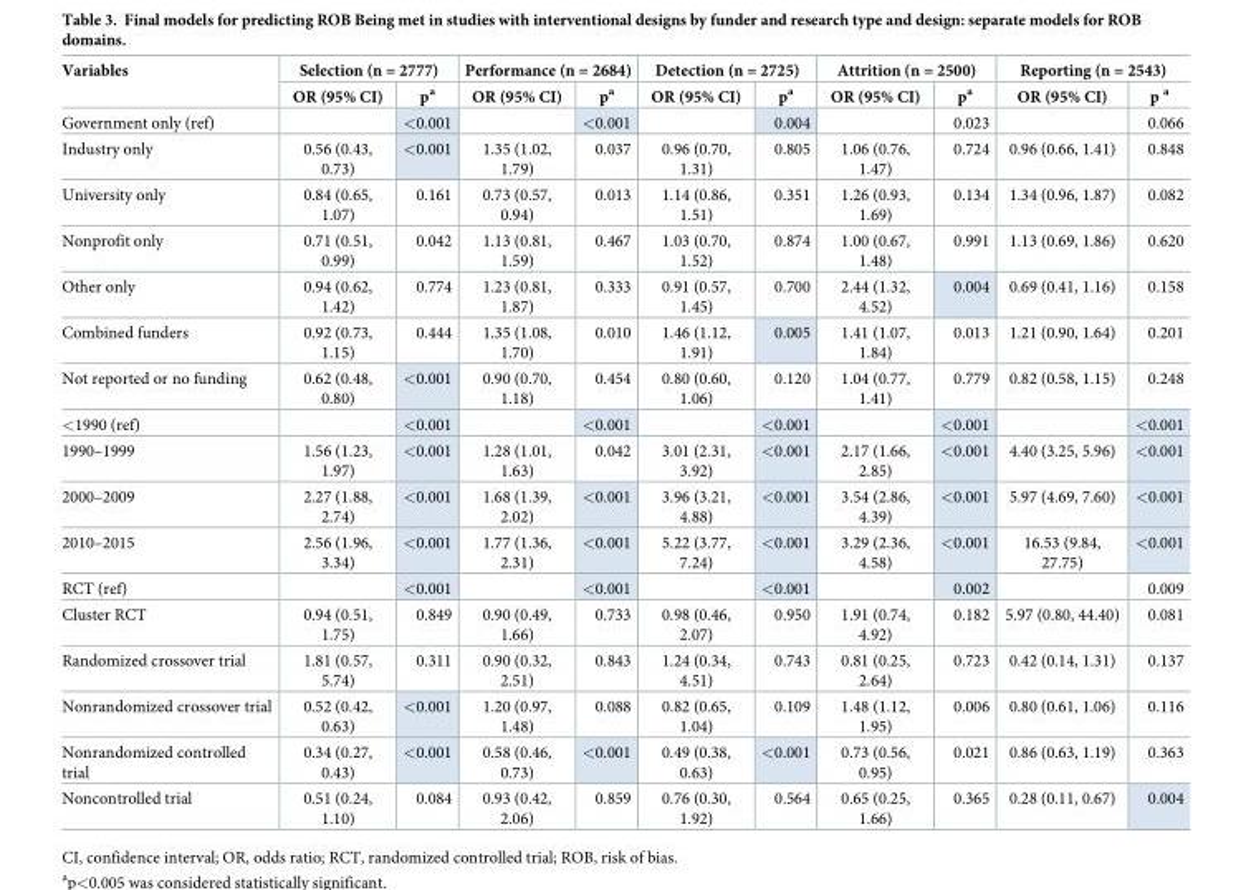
<table><thead><tr><td rowspan="2">Variables</td><td colspan="2">Selection (n = 2777)</td><td colspan="2">Performance (n = 2684)</td><td colspan="2">Detection (n = 2725)</td><td colspan="2">Attrition (n = 2500)</td><td colspan="2">Reporting (n = 2543)</td></tr><tr><td>OR (95% CI)</td><td>p<sup>a</sup></td><td>OR (95% CI)</td><td>p<sup>a</sup></td><td>OR (95% CI)</td><td>p<sup>a</sup></td><td>OR (95% CI)</td><td>p<sup>a</sup></td><td>OR (95% CI)</td><td>p <sup>a</sup></td></tr></thead><tbody><tr><td>Government only (ref)</td><td></td><td>&lt;0.001</td><td></td><td>&lt;0.001</td><td></td><td>0.004</td><td></td><td>0.023</td><td></td><td>0.066</td></tr><tr><td>Industry only</td><td>0.56 (0.43, 0.73)</td><td>&lt;0.001</td><td>1.35 (1.02, 1.79)</td><td>0.037</td><td>0.96 (0.70, 1.31)</td><td>0.805</td><td>1.06 (0.76, 1.47)</td><td>0.724</td><td>0.96 (0.66, 1.41)</td><td>0.848</td></tr><tr><td>University only</td><td>0.84 (0.65, 1.07)</td><td>0.161</td><td>0.73 (0.57, 0.94)</td><td>0.013</td><td>1.14 (0.86, 1.51)</td><td>0.351</td><td>1.26 (0.93, 1.69)</td><td>0.134</td><td>1.34 (0.96, 1.87)</td><td>0.082</td></tr><tr><td>Nonprofit only</td><td>0.71 (0.51, 0.99)</td><td>0.042</td><td>1.13 (0.81, 1.59)</td><td>0.467</td><td>1.03 (0.70, 1.52)</td><td>0.874</td><td>1.00 (0.67, 1.48)</td><td>0.991</td><td>1.13 (0.69, 1.86)</td><td>0.620</td></tr><tr><td>Other only</td><td>0.94 (0.62, 1.42)</td><td>0.774</td><td>1.23 (0.81, 1.87)</td><td>0.333</td><td>0.91 (0.57, 1.45)</td><td>0.700</td><td>2.44 (1.32, 4.52)</td><td>0.004</td><td>0.69 (0.41, 1.16)</td><td>0.158</td></tr><tr><td>Combined funders</td><td>0.92 (0.73, 1.15)</td><td>0.444</td><td>1.35 (1.08, 1.70)</td><td>0.010</td><td>1.46 (1.12, 1.91)</td><td>0.005</td><td>1.41 (1.07, 1.84)</td><td>0.013</td><td>1.21 (0.90, 1.64)</td><td>0.201</td></tr><tr><td>Not reported or no funding</td><td>0.62 (0.48, 0.80)</td><td>&lt;0.001</td><td>0.90 (0.70, 1.18)</td><td>0.454</td><td>0.80 (0.60, 1.06)</td><td>0.120</td><td>1.04 (0.77, 1.41)</td><td>0.779</td><td>0.82 (0.58, 1.15)</td><td>0.248</td></tr><tr><td>&lt;1990 (ref)</td><td></td><td>&lt;0.001</td><td></td><td>&lt;0.001</td><td></td><td>&lt;0.001</td><td></td><td>&lt;0.001</td><td></td><td>&lt;0.001</td></tr><tr><td>1990–1999</td><td>1.56 (1.23, 1.97)</td><td>&lt;0.001</td><td>1.28 (1.01, 1.63)</td><td>0.042</td><td>3.01 (2.31, 3.92)</td><td>&lt;0.001</td><td>2.17 (1.66, 2.85)</td><td>&lt;0.001</td><td>4.40 (3.25, 5.96)</td><td>&lt;0.001</td></tr><tr><td>2000–2009</td><td>2.27 (1.88, 2.74)</td><td>&lt;0.001</td><td>1.68 (1.39, 2.02)</td><td>&lt;0.001</td><td>3.96 (3.21, 4.88)</td><td>&lt;0.001</td><td>3.54 (2.86, 4.39)</td><td>&lt;0.001</td><td>5.97 (4.69, 7.60)</td><td>&lt;0.001</td></tr><tr><td>2010–2015</td><td>2.56 (1.96, 3.34)</td><td>&lt;0.001</td><td>1.77 (1.36, 2.31)</td><td>&lt;0.001</td><td>5.22 (3.77, 7.24)</td><td>&lt;0.001</td><td>3.29 (2.36, 4.58)</td><td>&lt;0.001</td><td>16.53 (9.84, 27.75)</td><td>&lt;0.001</td></tr><tr><td>RCT (ref)</td><td></td><td>&lt;0.001</td><td></td><td>&lt;0.001</td><td></td><td>&lt;0.001</td><td></td><td>0.002</td><td></td><td>0.009</td></tr><tr><td>Cluster RCT</td><td>0.94 (0.51, 1.75)</td><td>0.849</td><td>0.90 (0.49, 1.66)</td><td>0.733</td><td>0.98 (0.46, 2.07)</td><td>0.950</td><td>1.91 (0.74, 4.92)</td><td>0.182</td><td>5.97 (0.80, 44.40)</td><td>0.081</td></tr><tr><td>Randomized crossover trial</td><td>1.81 (0.57, 5.74)</td><td>0.311</td><td>0.90 (0.32, 2.51)</td><td>0.843</td><td>1.24 (0.34, 4.51)</td><td>0.743</td><td>0.81 (0.25, 2.64)</td><td>0.723</td><td>0.42 (0.14, 1.31)</td><td>0.137</td></tr><tr><td>Nonrandomized crossover trial</td><td>0.52 (0.42, 0.63)</td><td>&lt;0.001</td><td>1.20 (0.97, 1.48)</td><td>0.088</td><td>0.82 (0.65, 1.04)</td><td>0.109</td><td>1.48 (1.12, 1.95)</td><td>0.006</td><td>0.80 (0.61, 1.06)</td><td>0.116</td></tr><tr><td>Nonrandomized controlled trial</td><td>0.34 (0.27, 0.43)</td><td>&lt;0.001</td><td>0.58 (0.46, 0.73)</td><td>&lt;0.001</td><td>0.49 (0.38, 0.63)</td><td>&lt;0.001</td><td>0.73 (0.56, 0.95)</td><td>0.021</td><td>0.86 (0.63, 1.19)</td><td>0.363</td></tr><tr><td>Noncontrolled trial</td><td>0.51 (0.24, 1.10)</td><td>0.084</td><td>0.93 (0.42, 2.06)</td><td>0.859</td><td>0.76 (0.30, 1.92)</td><td>0.564</td><td>0.65 (0.25, 1.66)</td><td>0.365</td><td>0.28 (0.11, 0.67)</td><td>0.004</td></tr></tbody></table>